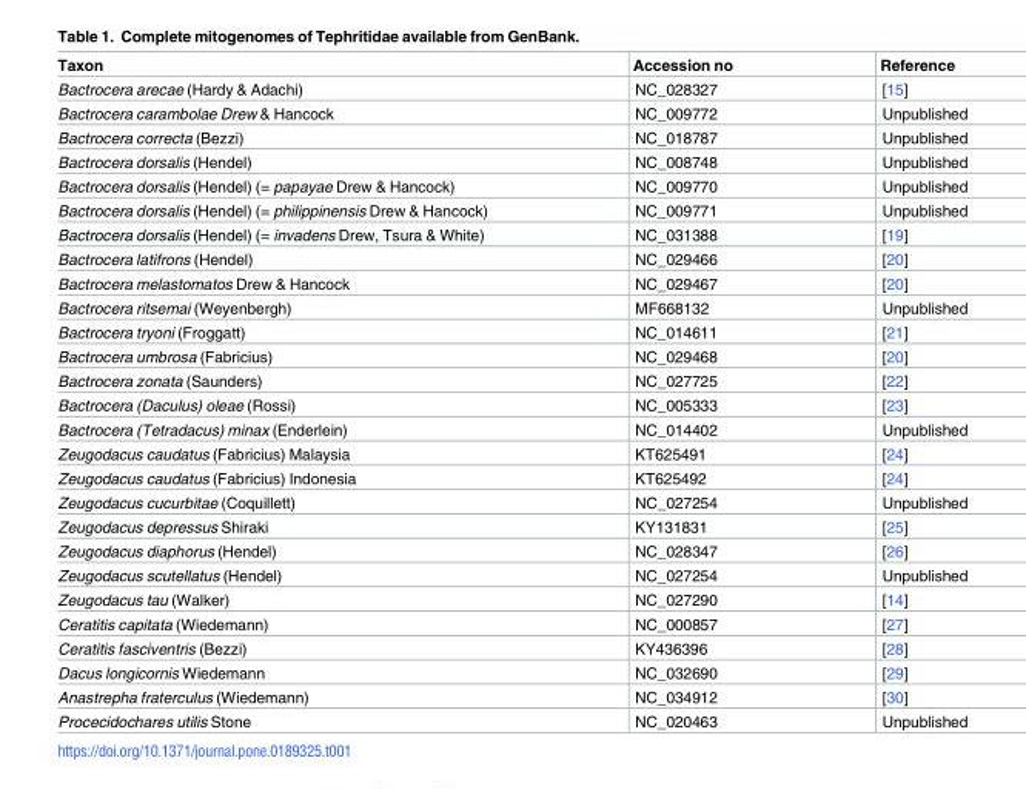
<table><thead><tr><td>Taxon</td><td>Accession no</td><td>Reference</td></tr></thead><tbody><tr><td>Bactrocera arecae (Hardy &amp; Adachi)</td><td>NC_028327</td><td>[15]</td></tr><tr><td>Bactrocera carambolae Drew &amp; Hancock</td><td>NC_009772</td><td>Unpublished</td></tr><tr><td>Bactrocera correcta (Bezzi)</td><td>NC_018787</td><td>Unpublished</td></tr><tr><td>Bactrocera dorsalis (Hendel)</td><td>NC_008748</td><td>Unpublished</td></tr><tr><td>Bactrocera dorsalis (Hendel) (= papayae Drew &amp; Hancock)</td><td>NC_009770</td><td>Unpublished</td></tr><tr><td>Bactrocera dorsalis (Hendel) (= philippinensis Drew &amp; Hancock)</td><td>NC_009771</td><td>Unpublished</td></tr><tr><td>Bactrocera dorsalis (Hendel) (= invadens Drew, Tsura &amp; White)</td><td>NC_031388</td><td>[19]</td></tr><tr><td>Bactrocera latifrons (Hendel)</td><td>NC_029466</td><td>[20]</td></tr><tr><td>Bactrocera melastomatos Drew &amp; Hancock</td><td>NC_029467</td><td>[20]</td></tr><tr><td>Bactrocera ritsemai (Weyenbergh)</td><td>MF668132</td><td>Unpublished</td></tr><tr><td>Bactrocera tryoni (Froggatt)</td><td>NC_014611</td><td>[21]</td></tr><tr><td>Bactrocera umbrosa (Fabricius)</td><td>NC_029468</td><td>[20]</td></tr><tr><td>Bactrocera zonata (Saunders)</td><td>NC_027725</td><td>[22]</td></tr><tr><td>Bactrocera (Daculus) oleae (Rossi)</td><td>NC_005333</td><td>[23]</td></tr><tr><td>Bactrocera (Tetradacus) minax (Enderlein)</td><td>NC_014402</td><td>Unpublished</td></tr><tr><td>Zeugodacus caudatus (Fabricius) Malaysia</td><td>KT625491</td><td>[24]</td></tr><tr><td>Zeugodacus caudatus (Fabricius) Indonesia</td><td>KT625492</td><td>[24]</td></tr><tr><td>Zeugodacus cucurbitae (Coquillett)</td><td>NC_027254</td><td>Unpublished</td></tr><tr><td>Zeugodacus depressus Shiraki</td><td>KY131831</td><td>[25]</td></tr><tr><td>Zeugodacus diaphorus (Hendel)</td><td>NC_028347</td><td>[26]</td></tr><tr><td>Zeugodacus scutellatus (Hendel)</td><td>NC_027254</td><td>Unpublished</td></tr><tr><td>Zeugodacus tau (Walker)</td><td>NC_027290</td><td>[14]</td></tr><tr><td>Ceratitis capitata (Wiedemann)</td><td>NC_000857</td><td>[27]</td></tr><tr><td>Ceratitis fasciventris (Bezzi)</td><td>KY436396</td><td>[28]</td></tr><tr><td>Dacus longicornis Wiedemann</td><td>NC_032690</td><td>[29]</td></tr><tr><td>Anastrepha fraterculus (Wiedemann)</td><td>NC_034912</td><td>[30]</td></tr><tr><td>Procecidochares utilis Stone</td><td>NC_020463</td><td>Unpublished</td></tr></tbody></table>